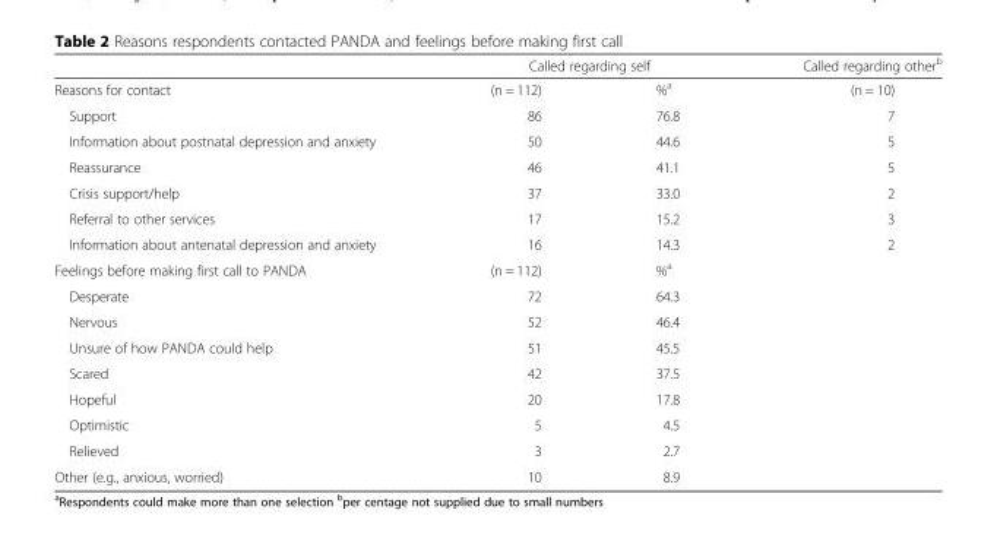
<table><thead><tr><td rowspan="2">Reasons for contact</td><td colspan="2">Called regarding self</td><td rowspan="2">Called regarding other<sup>b</sup> (n = 10)</td></tr><tr><td>(n = 112)</td><td>%<sup>a</sup></td></tr></thead><tbody><tr><td>Support</td><td>86</td><td>76.8</td><td>7</td></tr><tr><td>Information about postnatal depression and anxiety</td><td>50</td><td>44.6</td><td>5</td></tr><tr><td>Reassurance</td><td>46</td><td>41.1</td><td>5</td></tr><tr><td>Crisis support/help</td><td>37</td><td>33.0</td><td>2</td></tr><tr><td>Referral to other services</td><td>17</td><td>15.2</td><td>3</td></tr><tr><td>Information about antenatal depression and anxiety</td><td>16</td><td>14.3</td><td>2</td></tr><tr><td>Feelings before making first call to PANDA</td><td>(n = 112)</td><td>%<sup>a</sup></td><td></td></tr><tr><td>Desperate</td><td>72</td><td>64.3</td><td></td></tr><tr><td>Nervous</td><td>52</td><td>46.4</td><td></td></tr><tr><td>Unsure of how PANDA could help</td><td>51</td><td>45.5</td><td></td></tr><tr><td>Scared</td><td>42</td><td>37.5</td><td></td></tr><tr><td>Hopeful</td><td>20</td><td>17.8</td><td></td></tr><tr><td>Optimistic</td><td>5</td><td>4.5</td><td></td></tr><tr><td>Relieved</td><td>3</td><td>2.7</td><td></td></tr><tr><td>Other (e.g., anxious, worried)</td><td>10</td><td>8.9</td><td></td></tr></tbody></table>